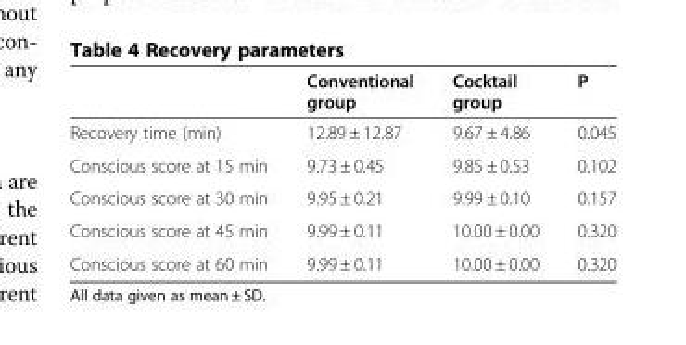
<table><thead><tr><td></td><td>Conventional group</td><td>Cocktail group</td><td>P</td></tr></thead><tbody><tr><td>Recovery time (min)</td><td>12.89 ± 12.87</td><td>9.67 ± 4.86</td><td>0.045</td></tr><tr><td>Conscious score at 15 min</td><td>9.73 ± 0.45</td><td>9.85 ± 0.53</td><td>0.102</td></tr><tr><td>Conscious score at 30 min</td><td>9.95 ± 0.21</td><td>9.99 ± 0.10</td><td>0.157</td></tr><tr><td>Conscious score at 45 min</td><td>9.99 ± 0.11</td><td>10.00 ± 0.00</td><td>0.320</td></tr><tr><td>Conscious score at 60 min</td><td>9.99 ± 0.11</td><td>10.00 ± 0.00</td><td>0.320</td></tr></tbody></table>